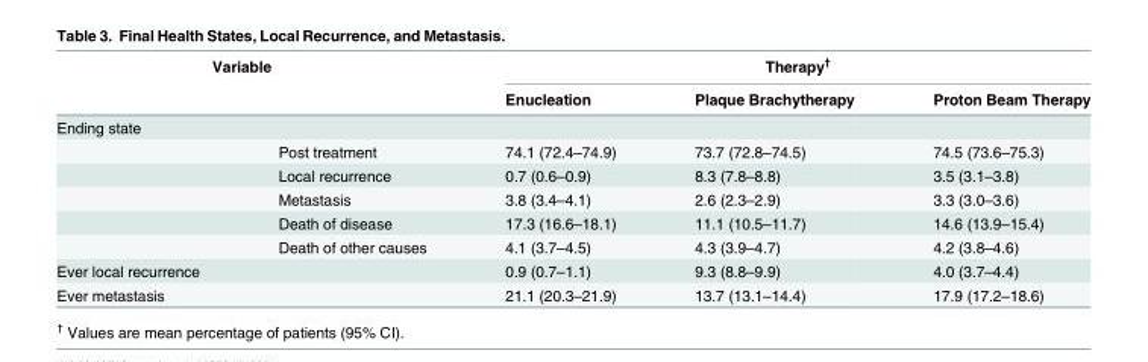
<table><thead><tr><td rowspan="2" colspan="2">Variable</td><td colspan="3">Therapy<sup>†</sup></td></tr><tr><td rowspan="2">Enucleation</td><td rowspan="2">Plaque Brachytherapy</td><td rowspan="2">Proton Beam Therapy</td></tr><tr><td>Ending state</td><td></td></tr></thead><tbody><tr><td></td><td>Post treatment</td><td>74.1 (72.4–74.9)</td><td>73.7 (72.8–74.5)</td><td>74.5 (73.6–75.3)</td></tr><tr><td></td><td>Local recurrence</td><td>0.7 (0.6–0.9)</td><td>8.3 (7.8–8.8)</td><td>3.5 (3.1–3.8)</td></tr><tr><td></td><td>Metastasis</td><td>3.8 (3.4–4.1)</td><td>2.6 (2.3–2.9)</td><td>3.3 (3.0–3.6)</td></tr><tr><td></td><td>Death of disease</td><td>17.3 (16.6–18.1)</td><td>11.1 (10.5–11.7)</td><td>14.6 (13.9–15.4)</td></tr><tr><td></td><td>Death of other causes</td><td>4.1 (3.7–4.5)</td><td>4.3 (3.9–4.7)</td><td>4.2 (3.8–4.6)</td></tr><tr><td>Ever local recurrence</td><td></td><td>0.9 (0.7–1.1)</td><td>9.3 (8.8–9.9)</td><td>4.0 (3.7–4.4)</td></tr><tr><td>Ever metastasis</td><td></td><td>21.1 (20.3–21.9)</td><td>13.7 (13.1–14.4)</td><td>17.9 (17.2–18.6)</td></tr></tbody></table>